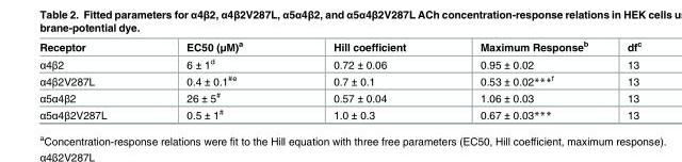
<table><thead><tr><td>Receptor</td><td>EC50 (μM)<sup>a</sup></td><td>Hill coefficient</td><td>Maximum Response<sup>b</sup></td><td>df<sup>c</sup></td></tr></thead><tbody><tr><td>α4β2</td><td>6 ± 1<sup>d</sup></td><td>0.72 ± 0.06</td><td>0.95 ± 0.02</td><td>13</td></tr><tr><td>α4β2V287L</td><td>0.4 ± 0.1<sup>#e</sup></td><td>0.7 ± 0.1</td><td>0.53 ± 0.02***<sup>f</sup></td><td>13</td></tr><tr><td>α5α4β2</td><td>26 ± 5<sup>#</sup></td><td>0.57 ± 0.04</td><td>1.06 ± 0.03</td><td>13</td></tr><tr><td>α5α4β2V287L</td><td>0.5 ± 1<sup>#</sup></td><td>1.0 ± 0.3</td><td>0.67 ± 0.03***</td><td>13</td></tr></tbody></table>